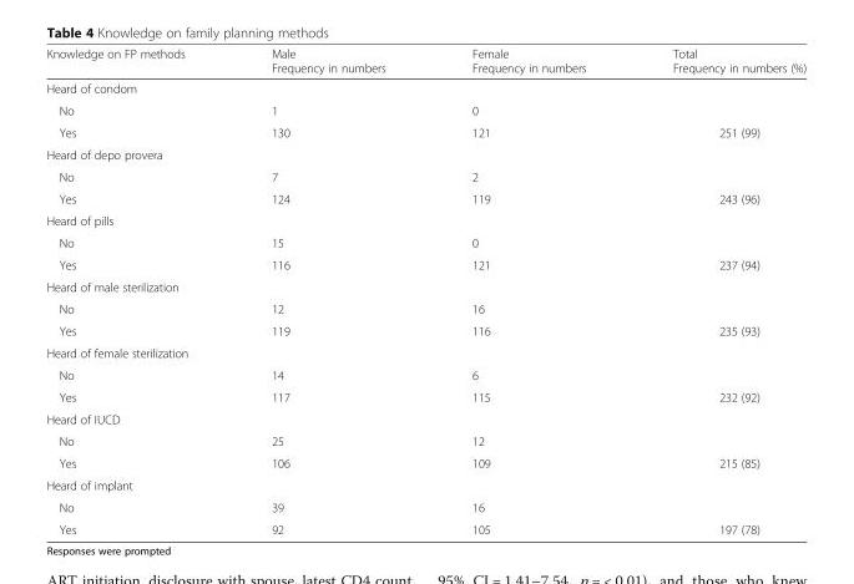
<table><thead><tr><td>Knowledge on FP methods</td><td>Male Frequency in numbers</td><td>Female Frequency in numbers</td><td>Total Frequency in numbers (%)</td></tr></thead><tbody><tr><td colspan="4">Heard of condom</td></tr><tr><td>No</td><td>1</td><td>0</td><td></td></tr><tr><td>Yes</td><td>130</td><td>121</td><td>251 (99)</td></tr><tr><td colspan="4">Heard of depo provera</td></tr><tr><td>No</td><td>7</td><td>2</td><td></td></tr><tr><td>Yes</td><td>124</td><td>119</td><td>243 (96)</td></tr><tr><td colspan="4">Heard of pills</td></tr><tr><td>No</td><td>15</td><td>0</td><td></td></tr><tr><td>Yes</td><td>116</td><td>121</td><td>237 (94)</td></tr><tr><td colspan="4">Heard of male sterilization</td></tr><tr><td>No</td><td>12</td><td>16</td><td></td></tr><tr><td>Yes</td><td>119</td><td>116</td><td>235 (93)</td></tr><tr><td colspan="4">Heard of female sterilization</td></tr><tr><td>No</td><td>14</td><td>6</td><td></td></tr><tr><td>Yes</td><td>117</td><td>115</td><td>232 (92)</td></tr><tr><td colspan="4">Heard of IUCD</td></tr><tr><td>No</td><td>25</td><td>12</td><td></td></tr><tr><td>Yes</td><td>106</td><td>109</td><td>215 (85)</td></tr><tr><td colspan="4">Heard of implant</td></tr><tr><td>No</td><td>39</td><td>16</td><td></td></tr><tr><td>Yes</td><td>92</td><td>105</td><td>197 (78)</td></tr></tbody></table>